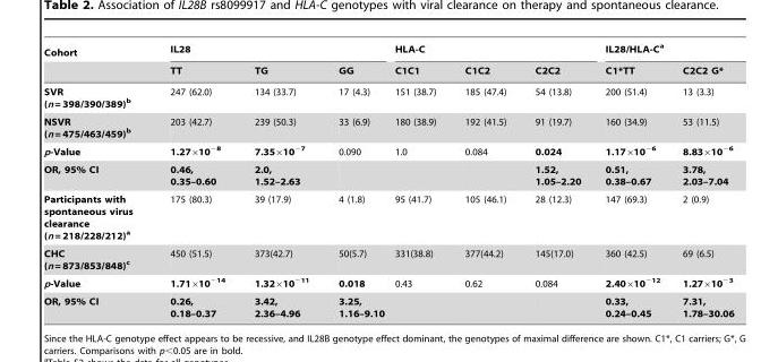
<table><thead><tr><td rowspan="2">Cohort</td><td colspan="3">IL28</td><td colspan="3">HLA-C</td><td colspan="2">IL28/HLA-C<sup>a</sup></td></tr><tr><td>TT</td><td>TG</td><td>GG</td><td>C1C1</td><td>C1C2</td><td>C2C2</td><td>C1*TT</td><td>C2C2 G*</td></tr></thead><tbody><tr><td>SVR (n = 398/390/389)b</td><td>247 (62.0)</td><td>134 (33.7)</td><td>17 (4.3)</td><td>151 (38.7)</td><td>185 (47.4)</td><td>54 (13.8)</td><td>200 (51.4)</td><td>13 (3.3)</td></tr><tr><td>NSVR (n = 475/463/459)b</td><td>203 (42.7)</td><td>239 (50.3)</td><td>33 (6.9)</td><td>180 (38.9)</td><td>192 (41.5)</td><td>91 (19.7)</td><td>160 (34.9)</td><td>53 (11.5)</td></tr><tr><td>p-Value</td><td>1.27×10<sup>−8</sup></td><td>7.35×10<sup>−7</sup></td><td>0.090</td><td>1.0</td><td>0.084</td><td>0.024</td><td>1.17×10<sup>−6</sup></td><td>8.83×10<sup>−6</sup></td></tr><tr><td>OR, 95% CI</td><td>0.46, 0.35–0.60</td><td>2.0, 1.52–2.63</td><td></td><td></td><td></td><td>1.52, 1.05–2.20</td><td>0.51, 0.38–0.67</td><td>3.78, 2.03–7.04</td></tr><tr><td>Participants with spontaneous virus clearance (n = 218/228/212)a</td><td>175 (80.3)</td><td>39 (17.9)</td><td>4 (1.8)</td><td>95 (41.7)</td><td>105 (46.1)</td><td>28 (12.3)</td><td>147 (69.3)</td><td>2 (0.9)</td></tr><tr><td>CHC (n = 873/853/848)<sup>c</sup></td><td>450 (51.5)</td><td>373(42.7)</td><td>50(5.7)</td><td>331(38.8)</td><td>377(44.2)</td><td>145(17.0)</td><td>360 (42.5)</td><td>69 (6.5)</td></tr><tr><td>p-Value</td><td>1.71×10<sup>−14</sup></td><td>1.32×10<sup>−11</sup></td><td>0.018</td><td>0.43</td><td>0.62</td><td>0.084</td><td>2.40×10<sup>−12</sup></td><td>1.27×10<sup>−3</sup></td></tr><tr><td>OR, 95% CI</td><td>0.26, 0.18–0.37</td><td>3.42, 2.36–4.96</td><td>3.25, 1.16–9.10</td><td></td><td></td><td></td><td>0.33, 0.24–0.45</td><td>7.31, 1.78–30.06</td></tr></tbody></table>